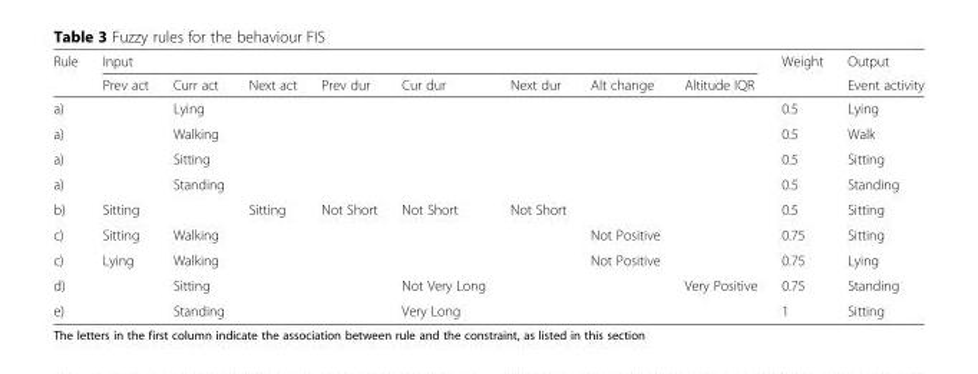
<table><thead><tr><td rowspan="2">Rule</td><td colspan="8">Input</td><td rowspan="2">Weight</td><td rowspan="2">Output Event activity</td></tr><tr><td>Prev act</td><td>Curr act</td><td>Next act</td><td>Prev dur</td><td>Cur dur</td><td>Next dur</td><td>Alt change</td><td>Altitude IQR</td></tr></thead><tbody><tr><td>a)</td><td></td><td>Lying</td><td></td><td></td><td></td><td></td><td></td><td></td><td>0.5</td><td>Lying</td></tr><tr><td>a)</td><td></td><td>Walking</td><td></td><td></td><td></td><td></td><td></td><td></td><td>0.5</td><td>Walk</td></tr><tr><td>a)</td><td></td><td>Sitting</td><td></td><td></td><td></td><td></td><td></td><td></td><td>0.5</td><td>Sitting</td></tr><tr><td>a)</td><td></td><td>Standing</td><td></td><td></td><td></td><td></td><td></td><td></td><td>0.5</td><td>Standing</td></tr><tr><td>b)</td><td>Sitting</td><td></td><td>Sitting</td><td>Not Short</td><td>Not Short</td><td>Not Short</td><td></td><td></td><td>0.5</td><td>Sitting</td></tr><tr><td>c)</td><td>Sitting</td><td>Walking</td><td></td><td></td><td></td><td></td><td>Not Positive</td><td></td><td>0.75</td><td>Sitting</td></tr><tr><td>c)</td><td>Lying</td><td>Walking</td><td></td><td></td><td></td><td></td><td>Not Positive</td><td></td><td>0.75</td><td>Lying</td></tr><tr><td>d)</td><td></td><td>Sitting</td><td></td><td></td><td>Not Very Long</td><td></td><td></td><td>Very Positive</td><td>0.75</td><td>Standing</td></tr><tr><td>e)</td><td></td><td>Standing</td><td></td><td></td><td>Very Long</td><td></td><td></td><td></td><td>1</td><td>Sitting</td></tr></tbody></table>